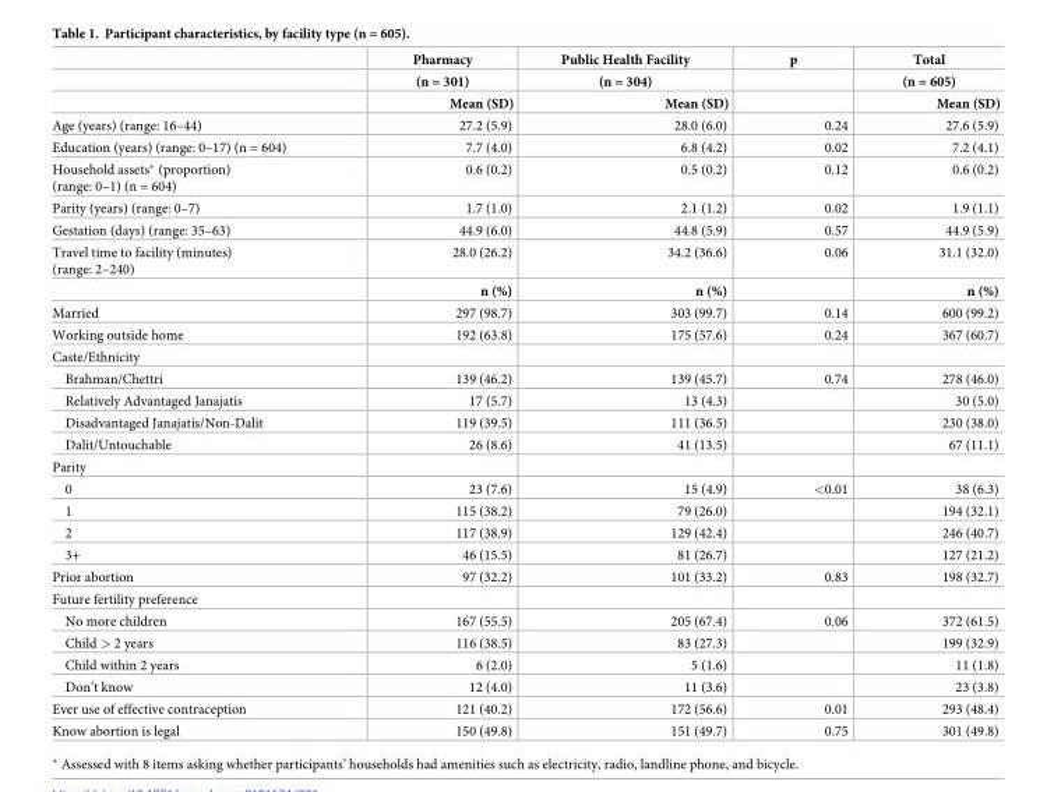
<table><thead><tr><td rowspan="3"></td><td rowspan="3">Pharmacy (n = 301) Mean (SD)</td><td rowspan="3">Public Health Facility (n = 304) Mean (SD)</td><td rowspan="3">p</td><td rowspan="3">Total (n = 605) Mean (SD)</td></tr><tr></tr><tr></tr></thead><tbody><tr><td>Age (years) (range: 16–44)</td><td>27.2 (5.9)</td><td>28.0 (6.0)</td><td>0.24</td><td>27.6 (5.9)</td></tr><tr><td>Education (years) (range: 0–17) (n = 604)</td><td>7.7 (4.0)</td><td>6.8 (4.2)</td><td>0.02</td><td>7.2 (4.1)</td></tr><tr><td>Household assets* (proportion) (range: 0–1) (n = 604)</td><td>0.6 (0.2)</td><td>0.5 (0.2)</td><td>0.12</td><td>0.6 (0.2)</td></tr><tr><td>Parity (years) (range: 0–7)</td><td>1.7 (1.0)</td><td>2.1 (1.2)</td><td>0.02</td><td>1.9 (1.1)</td></tr><tr><td>Gestation (days) (range: 35–63)</td><td>44.9 (6.0)</td><td>44.8 (5.9)</td><td>0.57</td><td>44.9 (5.9)</td></tr><tr><td rowspan="2">Travel time to facility (minutes) (range: 2–240)</td><td>28.0 (26.2)</td><td>34.2 (36.6)</td><td>0.06</td><td>31.1 (32.0)</td></tr><tr><td>n (%)</td><td>n (%)</td><td></td><td>n (%)</td></tr><tr><td>Married</td><td>297 (98.7)</td><td>303 (99.7)</td><td>0.14</td><td>600 (99.2)</td></tr><tr><td>Working outside home</td><td>192 (63.8)</td><td>175 (57.6)</td><td>0.24</td><td>367 (60.7)</td></tr><tr><td colspan="5">Caste/Ethnicity</td></tr><tr><td>Brahman/Chettri</td><td>139 (46.2)</td><td>139 (45.7)</td><td>0.74</td><td>278 (46.0)</td></tr><tr><td>Relatively Advantaged Janajatis</td><td>17 (5.7)</td><td>13 (4.3)</td><td></td><td>30 (5.0)</td></tr><tr><td>Disadvantaged Janajatis/Non-Dalit</td><td>119 (39.5)</td><td>111 (36.5)</td><td></td><td>230 (38.0)</td></tr><tr><td>Dalit/Untouchable</td><td>26 (8.6)</td><td>41 (13.5)</td><td></td><td>67 (11.1)</td></tr><tr><td colspan="5">Parity</td></tr><tr><td>0</td><td>23 (7.6)</td><td>15 (4.9)</td><td>&lt;0.01</td><td>38 (6.3)</td></tr><tr><td>1</td><td>115 (38.2)</td><td>79 (26.0)</td><td></td><td>194 (32.1)</td></tr><tr><td>2</td><td>117 (38.9)</td><td>129 (42.4)</td><td></td><td>246 (40.7)</td></tr><tr><td>3+</td><td>46 (15.5)</td><td>81 (26.7)</td><td></td><td>127 (21.2)</td></tr><tr><td>Prior abortion</td><td>97 (32.2)</td><td>101 (33.2)</td><td>0.83</td><td>198 (32.7)</td></tr><tr><td colspan="5">Future fertility preference</td></tr><tr><td>No more children</td><td>167 (55.5)</td><td>205 (67.4)</td><td>0.06</td><td>372 (61.5)</td></tr><tr><td>Child &gt; 2 years</td><td>116 (38.5)</td><td>83 (27.3)</td><td></td><td>199 (32.9)</td></tr><tr><td>Child within 2 years</td><td>6 (2.0)</td><td>5 (1.6)</td><td></td><td>11 (1.8)</td></tr><tr><td>Don’t know</td><td>12 (4.0)</td><td>11 (3.6)</td><td></td><td>23 (3.8)</td></tr><tr><td>Ever use of effective contraception</td><td>121 (40.2)</td><td>172 (56.6)</td><td>0.01</td><td>293 (48.4)</td></tr><tr><td>Know abortion is legal</td><td>150 (49.8)</td><td>151 (49.7)</td><td>0.75</td><td>301 (49.8)</td></tr></tbody></table>